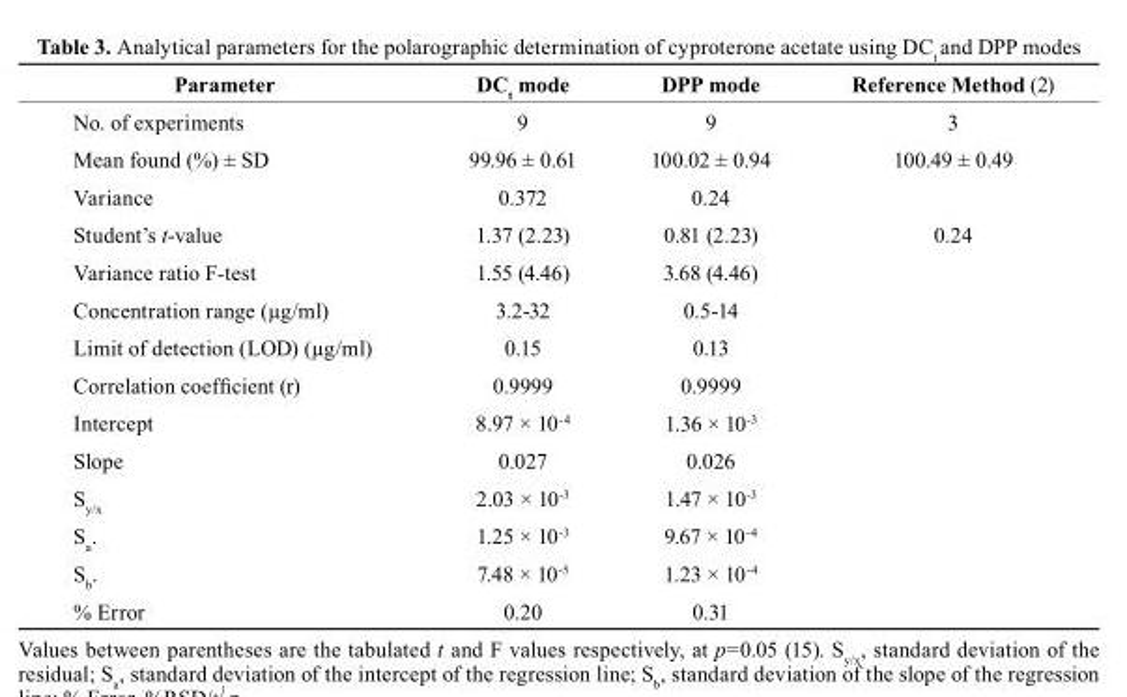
<table><thead><tr><td>Parameter</td><td>Dc<sub>t</sub> mode</td><td>DPP mode</td><td>reference method (2)</td></tr></thead><tbody><tr><td>No. of experiments</td><td>9</td><td>9</td><td>3</td></tr><tr><td>Mean found (%) ± SD</td><td>99.96 ± 0.61</td><td>100.02 ± 0.94</td><td>100.49 ± 0.49</td></tr><tr><td>Variance</td><td>0.372</td><td>0.24</td><td></td></tr><tr><td>Student’s t-value</td><td>1.37 (2.23)</td><td>0.81 (2.23)</td><td>0.24</td></tr><tr><td>Variance ratio F-test</td><td>1.55 (4.46)</td><td>3.68 (4.46)</td><td></td></tr><tr><td>Concentration range (µg/ml)</td><td>3.2-32</td><td>0.5-14</td><td></td></tr><tr><td>Limit of detection (LOD) (µg/ml)</td><td>0.15</td><td>0.13</td><td></td></tr><tr><td>Correlation coefficient (r)</td><td>0.9999</td><td>0.9999</td><td></td></tr><tr><td>Intercept</td><td>8.97 × 10<sup>-4</sup></td><td>1.36 × 10<sup>-3</sup></td><td></td></tr><tr><td>Slope</td><td>0.027</td><td>0.026</td><td></td></tr><tr><td>S<sub>y/x</sub></td><td>2.03 × 10<sup>-3</sup></td><td>1.47 × 10<sup>-3</sup></td><td></td></tr><tr><td>S<sub>a</sub>.</td><td>1.25 × 10<sup>-3</sup></td><td>9.67 × 10<sup>-4</sup></td><td></td></tr><tr><td>S<sub>b</sub>.</td><td>7.48 × 10<sup>-5</sup></td><td>1.23 × 10<sup>-4</sup></td><td></td></tr><tr><td>% Error</td><td>0.20</td><td>0.31</td><td></td></tr></tbody></table>